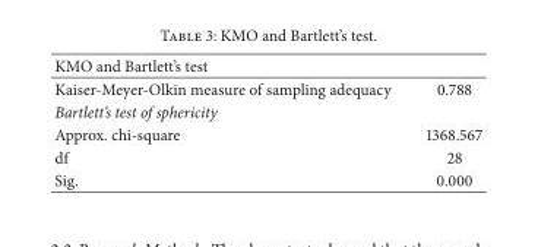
<table><thead><tr><td colspan="2">KMO and Bartlett’s test</td></tr><tr><td>Kaiser-Meyer-Olkin measure of sampling adequacy</td><td>0.788</td></tr></thead><tbody><tr><td colspan="2">Bartlett’s test of sphericity</td></tr><tr><td>Approx. chi-square</td><td>1368.567</td></tr><tr><td>df</td><td>28</td></tr><tr><td>Sig.</td><td>0.000</td></tr></tbody></table>